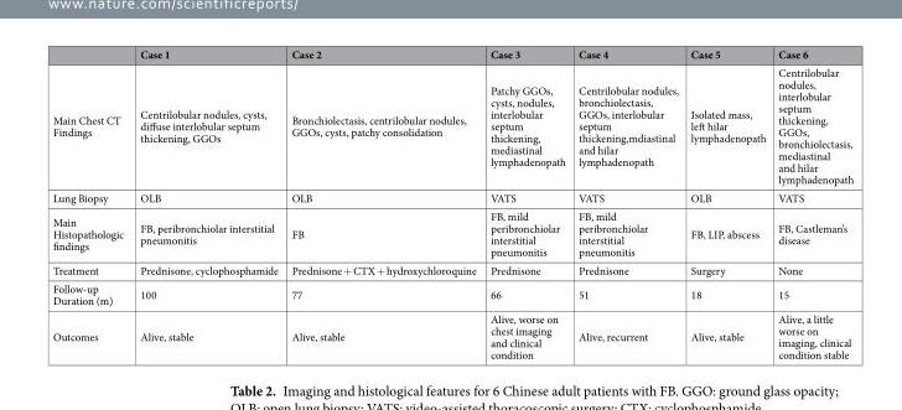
<table><thead><tr><td></td><td>Case 1</td><td>Case 2</td><td>Case 3</td><td>Case 4</td><td>Case 5</td><td>Case 6</td></tr></thead><tbody><tr><td>Main Chest CT Findings</td><td>Centrilobular nodules, cysts, diffuse interlobular septum thickening, GGOs</td><td>Bronchiolectasis, centrilobular nodules, GGOs, cysts, patchy consolidation</td><td>Patchy GGOs, cysts, nodules, interlobular septum thickening, mediastinal lymphadenopath</td><td>Centrilobular nodules, bronchiolectasis, GGOs, interlobular septum thickening,mdiastinal and hilar lymphadenopath</td><td>Isolated mass, left hilar lymphadenopath</td><td>Centrilobular nodules, interlobular septum thickening, GGOs, bronchiolectasis, mediastinal and hilar lymphadenopath</td></tr><tr><td>Lung Biopsy</td><td>OLB</td><td>OLB</td><td>VATS</td><td>VATS</td><td>OLB</td><td>VATS</td></tr><tr><td>Main Histopathologic findings</td><td>FB, peribronchiolar interstitial pneumonitis</td><td>FB</td><td>FB, mild peribronchiolar interstitial pneumonitis</td><td>FB, mild peribronchiolar interstitial pneumonitis</td><td>FB, LIP, abscess</td><td>FB, Castleman’s disease</td></tr><tr><td>Treatment</td><td>Prednisone, cyclophosphamide</td><td>Prednisone + CTX + hydroxychloroquine</td><td>Prednisone</td><td>Prednisone</td><td>Surgery</td><td>None</td></tr><tr><td>Follow-up Duration (m)</td><td>100</td><td>77</td><td>66</td><td>51</td><td>18</td><td>15</td></tr><tr><td>Outcomes</td><td>Alive, stable</td><td>Alive, stable</td><td>Alive, worse on chest imaging and clinical condition</td><td>Alive, recurrent</td><td>Alive, stable</td><td>Alive, a little worse on imaging, clinical condition stable</td></tr></tbody></table>